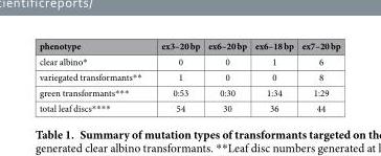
<table><thead><tr><td>phenotype</td><td>ex3–20 bp</td><td>ex6–20 bp</td><td>ex6–18 bp</td><td>ex7–20 bp</td></tr></thead><tbody><tr><td>clear albino*</td><td>0</td><td>0</td><td>1</td><td>6</td></tr><tr><td>variegated transformants**</td><td>1</td><td>0</td><td>0</td><td>8</td></tr><tr><td>green transformants***</td><td>0:53</td><td>0:30</td><td>1:34</td><td>1:29</td></tr><tr><td>total leaf discs****</td><td>54</td><td>30</td><td>36</td><td>44</td></tr></tbody></table>